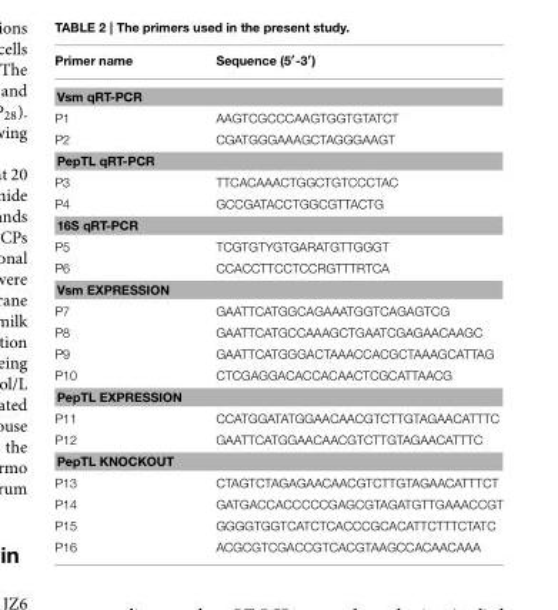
<table><thead><tr><td>Primer name</td><td>Sequence (5′-3′)</td></tr></thead><tbody><tr><td colspan="2">Vsm qRT-PCR</td></tr><tr><td>P1</td><td>AAGTCGCCCAAGTGGTGTATCT</td></tr><tr><td>P2</td><td>CGATGGGAAAGCTAGGGAAGT</td></tr><tr><td colspan="2">PepTL qRT-PCR</td></tr><tr><td>P3</td><td>TTCACAAACTGGCTGTCCCTAC</td></tr><tr><td>P4</td><td>GCCGATACCTGGCGTTACTG</td></tr><tr><td colspan="2">16S qRT-PCR</td></tr><tr><td>P5</td><td>TCGTGTYGTGARATGTTGGGT</td></tr><tr><td>P6</td><td>CCACCTTCCTCCRGTTTRTCA</td></tr><tr><td colspan="2">Vsm EXPRESSION</td></tr><tr><td>P7</td><td>GAATTCATGGCAGAAATGGTCAGAGTCG</td></tr><tr><td>P8</td><td>GAATTCATGCCAAAGCTGAATCGAGAACAAGC</td></tr><tr><td>P9</td><td>GAATTCATGGGACTAAACCACGCTAAAGCATTAG</td></tr><tr><td>P10</td><td>CTCGAGGACACCACAACTCGCATTAACG</td></tr><tr><td colspan="2">PepTL EXPRESSION</td></tr><tr><td>P11</td><td>CCATGGATATGGAACAACGTCTTGTAGAACATTTC</td></tr><tr><td>P12</td><td>GAATTCATGGAACAACGTCTTGTAGAACATTTC</td></tr><tr><td colspan="2">PepTL KNOCKOUT</td></tr><tr><td>P13</td><td>CTAGTCTAGAGAACAACGTCTTGTAGAACATTTCT</td></tr><tr><td>P14</td><td>GATGACCACCCCCGAGCGTAGATGTTGAAACCGT</td></tr><tr><td>P15</td><td>GGGGTGGTCATCTCACCCGCACATTCTTTCTATC</td></tr><tr><td>P16</td><td>ACGCGTCGACCGTCACGTAAGCCACAACAAA</td></tr></tbody></table>